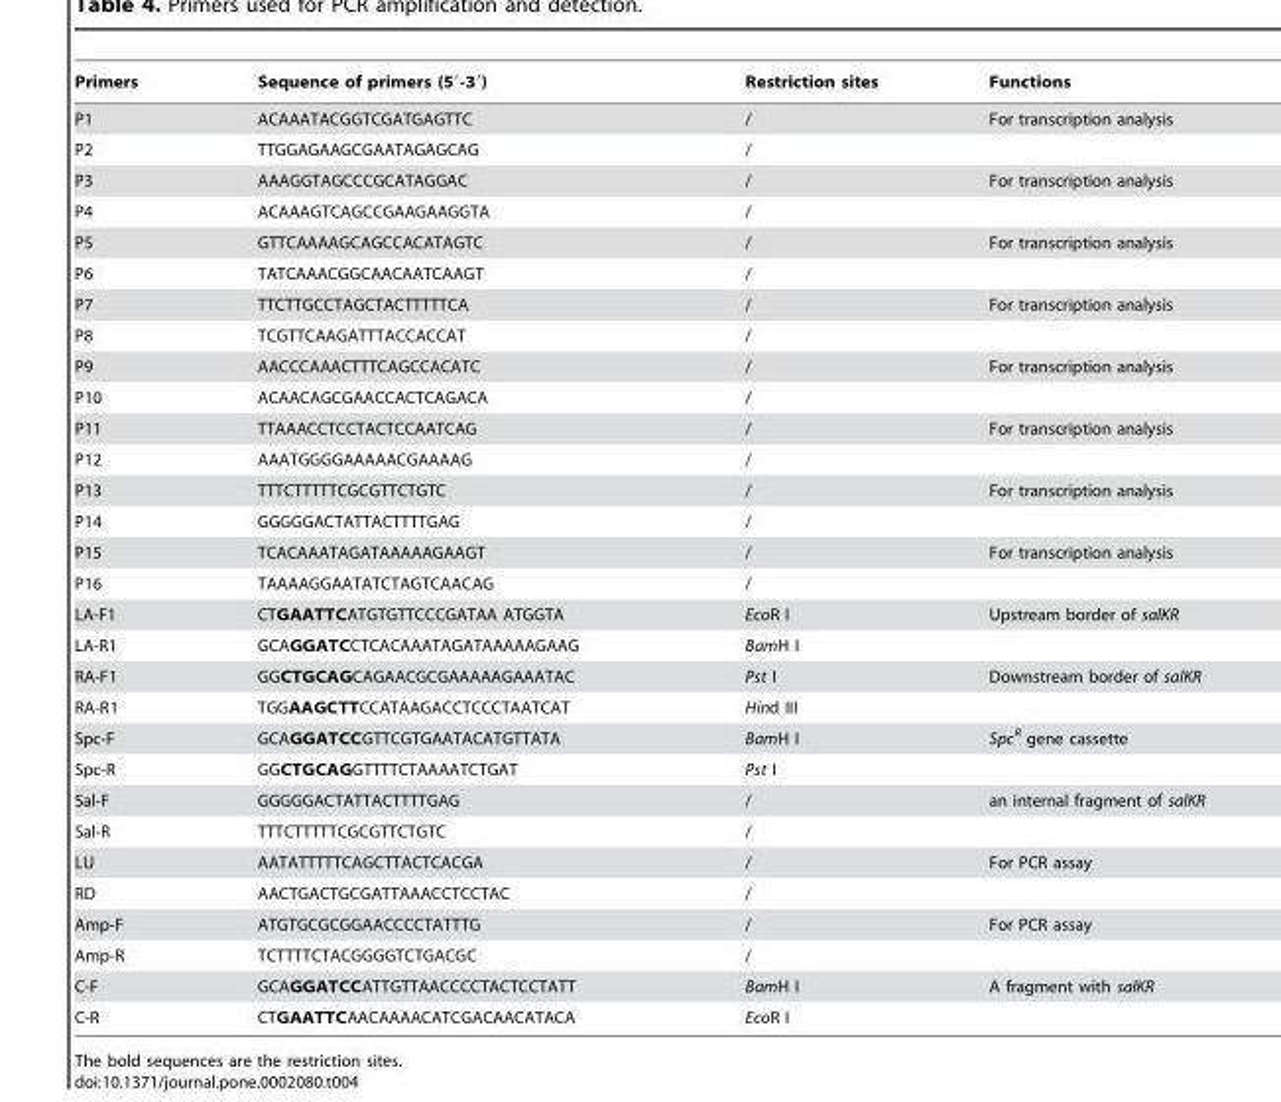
<table><thead><tr><td>Primers</td><td>Sequence of primers (5′-3′)</td><td>Restriction sites</td><td>Functions</td></tr></thead><tbody><tr><td>P1</td><td>ACAAATACGGTCGATGAGTTC</td><td>/</td><td>For transcription analysis</td></tr><tr><td>P2</td><td>TTGGAGAAGCGAATAGAGCAG</td><td>/</td><td></td></tr><tr><td>P3</td><td>AAAGGTAGCCCGCATAGGAC</td><td>/</td><td>For transcription analysis</td></tr><tr><td>P4</td><td>ACAAAGTCAGCCGAAGAAGGTA</td><td>/</td><td></td></tr><tr><td>P5</td><td>GTTCAAAAGCAGCCACATAGTC</td><td>/</td><td>For transcription analysis</td></tr><tr><td>P6</td><td>TATCAAACGGCAACAATCAAGT</td><td>/</td><td></td></tr><tr><td>P7</td><td>TTCTTGCCTAGCTACTTTTTCA</td><td>/</td><td>For transcription analysis</td></tr><tr><td>P8</td><td>TCGTTCAAGATTTACCACCAT</td><td>/</td><td></td></tr><tr><td>P9</td><td>AACCCAAACTTTCAGCCACATC</td><td>/</td><td>For transcription analysis</td></tr><tr><td>P10</td><td>ACAACAGCGAACCACTCAGACA</td><td>/</td><td></td></tr><tr><td>P11</td><td>TTAAACCTCCTACTCCAATCAG</td><td>/</td><td>For transcription analysis</td></tr><tr><td>P12</td><td>AAATGGGGAAAAACGAAAAG</td><td>/</td><td></td></tr><tr><td>P13</td><td>TTTCTTTTTCGCGTTCTGTC</td><td>/</td><td>For transcription analysis</td></tr><tr><td>P14</td><td>GGGGGACTATTACTTTTGAG</td><td>/</td><td></td></tr><tr><td>P15</td><td>TCACAAATAGATAAAAAGAAGT</td><td>/</td><td>For transcription analysis</td></tr><tr><td>P16</td><td>TAAAAGGAATATCTAGTCAACAG</td><td>/</td><td></td></tr><tr><td>LA-F1</td><td>CTGAATTCATGTGTTCCCGATAA ATGGTA</td><td>EcoR I</td><td>Upstream border of salKR</td></tr><tr><td>LA-R1</td><td>GCAGGATCCTCACAAATAGATAAAAAGAAG</td><td>BamH I</td><td></td></tr><tr><td>RA-F1</td><td>GGCTGCAGCAGAACGCGAAAAAGAAATAC</td><td>Pst I</td><td>Downstream border of salKR</td></tr><tr><td>RA-R1</td><td>TGGAAGCTTCCATAAGACCTCCCTAATCAT</td><td>Hind III</td><td></td></tr><tr><td>Spc-F</td><td>GCAGGATCCGTTCGTGAATACATGTTATA</td><td>BamH I</td><td>Spc<sup>R</sup> gene cassette</td></tr><tr><td>Spc-R</td><td>GGCTGCAGGTTTTCTAAAATCTGAT</td><td>Pst I</td><td></td></tr><tr><td>Sal-F</td><td>GGGGGACTATTACTTTTGAG</td><td>/</td><td>an internal fragment of salKR</td></tr><tr><td>Sal-R</td><td>TTTCTTTTTCGCGTTCTGTC</td><td>/</td><td></td></tr><tr><td>LU</td><td>AATATTTTTCAGCTTACTCACGA</td><td>/</td><td>For PCR assay</td></tr><tr><td>RD</td><td>AACTGACTGCGATTAAACCTCCTAC</td><td>/</td><td></td></tr><tr><td>Amp-F</td><td>ATGTGCGCGGAACCCCTATTTG</td><td>/</td><td>For PCR assay</td></tr><tr><td>Amp-R</td><td>TCTTTTCTACGGGGTCTGACGC</td><td>/</td><td></td></tr><tr><td>C-F</td><td>GCAGGATCCATTGTTAACCCCTACTCCTATT</td><td>BamH I</td><td>A fragment with salKR</td></tr><tr><td>C-R</td><td>CTGAATTCAACAAAACATCGACAACATACA</td><td>EcoR I</td><td></td></tr></tbody></table>